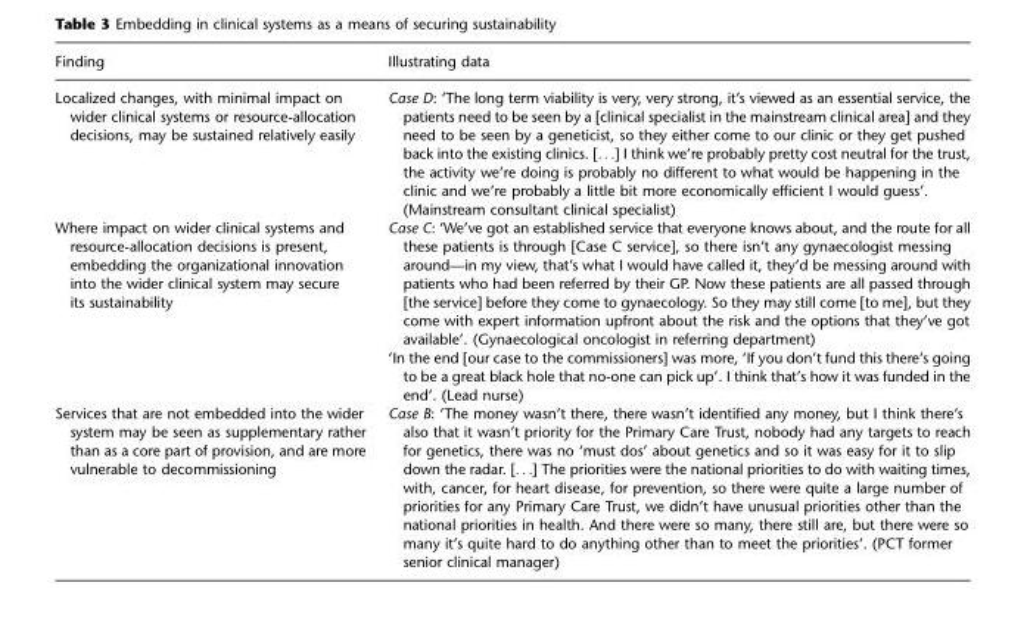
<table><thead><tr><td>Finding</td><td>Illustrating data</td></tr></thead><tbody><tr><td>Localized changes, with minimal impact on wider clinical systems or resource-allocation decisions, may be sustained relatively easily</td><td>Case D: ‘The long term viability is very, very strong, it’s viewed as an essential service, the patients need to be seen by a [clinical specialist in the mainstream clinical area] and they need to be seen by a geneticist, so they either come to our clinic or they get pushed back into the existing clinics. [. . .] I think we’re probably pretty cost neutral for the trust, the activity we’re doing is probably no different to what would be happening in the clinic and we’re probably a little bit more economically efficient I would guess’. (Mainstream consultant clinical specialist)</td></tr><tr><td rowspan="2">Where impact on wider clinical systems and resource-allocation decisions is present, embedding the organizational innovation into the wider clinical system may secure its sustainability</td><td>Case C: ‘We’ve got an established service that everyone knows about, and the route for all these patients is through [Case C service], so there isn’t any gynaecologist messing around—in my view, that’s what I would have called it, they’d be messing around with patients who had been referred by their GP. Now these patients are all passed through [the service] before they come to gynaecology. So they may still come [to me], but they come with expert information upfront about the risk and the options that they’ve got available’. (Gynaecological oncologist in referring department)</td></tr><tr><td>‘In the end [our case to the commissioners] was more, ‘If you don’t fund this there’s going to be a great black hole that no-one can pick up’. I think that’s how it was funded in the end’. (Lead nurse)</td></tr><tr><td>Services that are not embedded into the wider system may be seen as supplementary rather than as a core part of provision, and are more vulnerable to decommissioning</td><td>Case B: ‘The money wasn’t there, there wasn’t identified any money, but I think there’s also that it wasn’t priority for the Primary Care Trust, nobody had any targets to reach for genetics, there was no ‘must dos’ about genetics and so it was easy for it to slip down the radar. [. . .] The priorities were the national priorities to do with waiting times, with, cancer, for heart disease, for prevention, so there were quite a large number of priorities for any Primary Care Trust, we didn’t have unusual priorities other than the national priorities in health. And there were so many, there still are, but there were so many it’s quite hard to do anything other than to meet the priorities’. (PCT former senior clinical manager)</td></tr></tbody></table>